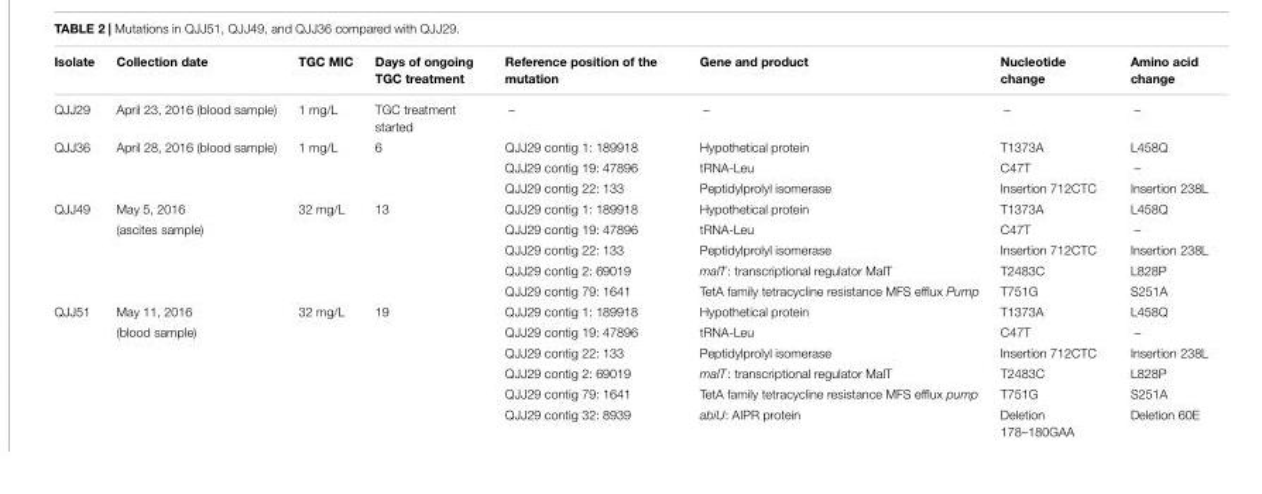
<table><thead><tr><td>Isolate</td><td>Collection date</td><td>TGC MIC</td><td>Days of ongoing TGC treatment</td><td>Reference position of the mutation</td><td>Gene and product</td><td>Nucleotide change</td><td>Amino acid change</td></tr></thead><tbody><tr><td>QJJ29</td><td>April 23, 2016 (blood sample)</td><td>1 mg/L</td><td>TGC treatment started</td><td>–</td><td>–</td><td>–</td><td>–</td></tr><tr><td rowspan="3">QJJ36</td><td>April 28, 2016 (blood sample)</td><td>1 mg/L</td><td>6</td><td>QJJ29 contig 1: 189918</td><td>Hypothetical protein</td><td>T1373A</td><td>L458Q</td></tr><tr><td></td><td></td><td></td><td>QJJ29 contig 19: 47896</td><td>tRNA-Leu</td><td>C47T</td><td>–</td></tr><tr><td></td><td></td><td></td><td>QJJ29 contig 22: 133</td><td>Peptidylprolyl isomerase</td><td>Insertion 712CTC</td><td>Insertion 238L</td></tr><tr><td rowspan="5">QJJ49</td><td>May 5, 2016</td><td>32 mg/L</td><td>13</td><td>QJJ29 contig 1: 189918</td><td>Hypothetical protein</td><td>T1373A</td><td>L458Q</td></tr><tr><td>(ascites sample)</td><td></td><td></td><td>QJJ29 contig 19: 47896</td><td>tRNA-Leu</td><td>C47T</td><td>–</td></tr><tr><td></td><td></td><td></td><td>QJJ29 contig 22: 133</td><td>Peptidylprolyl isomerase</td><td>Insertion 712CTC</td><td>Insertion 238L</td></tr><tr><td></td><td></td><td></td><td>QJJ29 contig 2: 69019</td><td>malT: transcriptional regulator MalT</td><td>T2483C</td><td>L828P</td></tr><tr><td></td><td></td><td></td><td>QJJ29 contig 79: 1641</td><td>TetA family tetracycline resistance MFS efflux Pump</td><td>T751G</td><td>S251A</td></tr><tr><td rowspan="6">QJJ51</td><td>May 11, 2016</td><td>32 mg/L</td><td>19</td><td>QJJ29 contig 1: 189918</td><td>Hypothetical protein</td><td>T1373A</td><td>L458Q</td></tr><tr><td>(blood sample)</td><td></td><td></td><td>QJJ29 contig 19: 47896</td><td>tRNA-Leu</td><td>C47T</td><td>–</td></tr><tr><td></td><td></td><td></td><td>QJJ29 contig 22: 133</td><td>Peptidylprolyl isomerase</td><td>Insertion 712CTC</td><td>Insertion 238L</td></tr><tr><td></td><td></td><td></td><td>QJJ29 contig 2: 69019</td><td>malT: transcriptional regulator MalT</td><td>T2483C</td><td>L828P</td></tr><tr><td></td><td></td><td></td><td>QJJ29 contig 79: 1641</td><td>TetA family tetracycline resistance MFS efflux pump</td><td>T751G</td><td>S251A</td></tr><tr><td></td><td></td><td></td><td>QJJ29 contig 32: 8939</td><td>abiU: AIPR protein</td><td>Deletion 178–180GAA</td><td>Deletion 60E</td></tr></tbody></table>